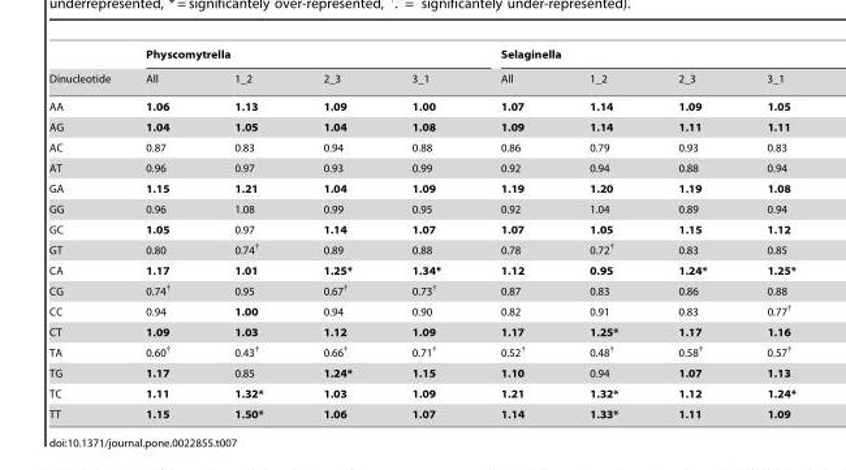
<table><thead><tr><td rowspan="2">Dinucleotide</td><td colspan="4">Physcomytrella</td><td colspan="4">Selaginella</td></tr><tr><td>All</td><td>1_2</td><td>2_3</td><td>3_1</td><td>All</td><td>1_2</td><td>2_3</td><td>3_1</td></tr></thead><tbody><tr><td>AA</td><td>1.06</td><td>1.13</td><td>1.09</td><td>1.00</td><td>1.07</td><td>1.14</td><td>1.09</td><td>1.05</td></tr><tr><td>AG</td><td>1.04</td><td>1.05</td><td>1.04</td><td>1.08</td><td>1.09</td><td>1.14</td><td>1.11</td><td>1.11</td></tr><tr><td>AC</td><td>0.87</td><td>0.83</td><td>0.94</td><td>0.88</td><td>0.86</td><td>0.79</td><td>0.93</td><td>0.83</td></tr><tr><td>AT</td><td>0.96</td><td>0.97</td><td>0.93</td><td>0.99</td><td>0.92</td><td>0.94</td><td>0.88</td><td>0.94</td></tr><tr><td>GA</td><td>1.15</td><td>1.21</td><td>1.04</td><td>1.09</td><td>1.19</td><td>1.20</td><td>1.19</td><td>1.08</td></tr><tr><td>GG</td><td>0.96</td><td>1.08</td><td>0.99</td><td>0.95</td><td>0.92</td><td>1.04</td><td>0.89</td><td>0.94</td></tr><tr><td>GC</td><td>1.05</td><td>0.97</td><td>1.14</td><td>1.07</td><td>1.07</td><td>1.05</td><td>1.15</td><td>1.12</td></tr><tr><td>GT</td><td>0.80</td><td>0.74<sup>†</sup></td><td>0.89</td><td>0.88</td><td>0.78</td><td>0.72<sup>†</sup></td><td>0.83</td><td>0.85</td></tr><tr><td>CA</td><td>1.17</td><td>1.01</td><td>1.25*</td><td>1.34*</td><td>1.12</td><td>0.95</td><td>1.24*</td><td>1.25*</td></tr><tr><td>CG</td><td>0.74<sup>†</sup></td><td>0.95</td><td>0.67<sup>†</sup></td><td>0.73<sup>†</sup></td><td>0.87</td><td>0.83</td><td>0.86</td><td>0.88</td></tr><tr><td>CC</td><td>0.94</td><td>1.00</td><td>0.94</td><td>0.90</td><td>0.82</td><td>0.91</td><td>0.83</td><td>0.77<sup>†</sup></td></tr><tr><td>CT</td><td>1.09</td><td>1.03</td><td>1.12</td><td>1.09</td><td>1.17</td><td>1.25*</td><td>1.17</td><td>1.16</td></tr><tr><td>TA</td><td>0.60<sup>†</sup></td><td>0.43<sup>†</sup></td><td>0.66<sup>†</sup></td><td>0.71<sup>†</sup></td><td>0.52<sup>†</sup></td><td>0.48<sup>†</sup></td><td>0.58<sup>†</sup></td><td>0.57<sup>†</sup></td></tr><tr><td>TG</td><td>1.17</td><td>0.85</td><td>1.24*</td><td>1.15</td><td>1.10</td><td>0.94</td><td>1.07</td><td>1.13</td></tr><tr><td>TC</td><td>1.11</td><td>1.32*</td><td>1.03</td><td>1.09</td><td>1.21</td><td>1.32*</td><td>1.12</td><td>1.24*</td></tr><tr><td>TT</td><td>1.15</td><td>1.50*</td><td>1.06</td><td>1.07</td><td>1.14</td><td>1.33*</td><td>1.11</td><td>1.09</td></tr></tbody></table>